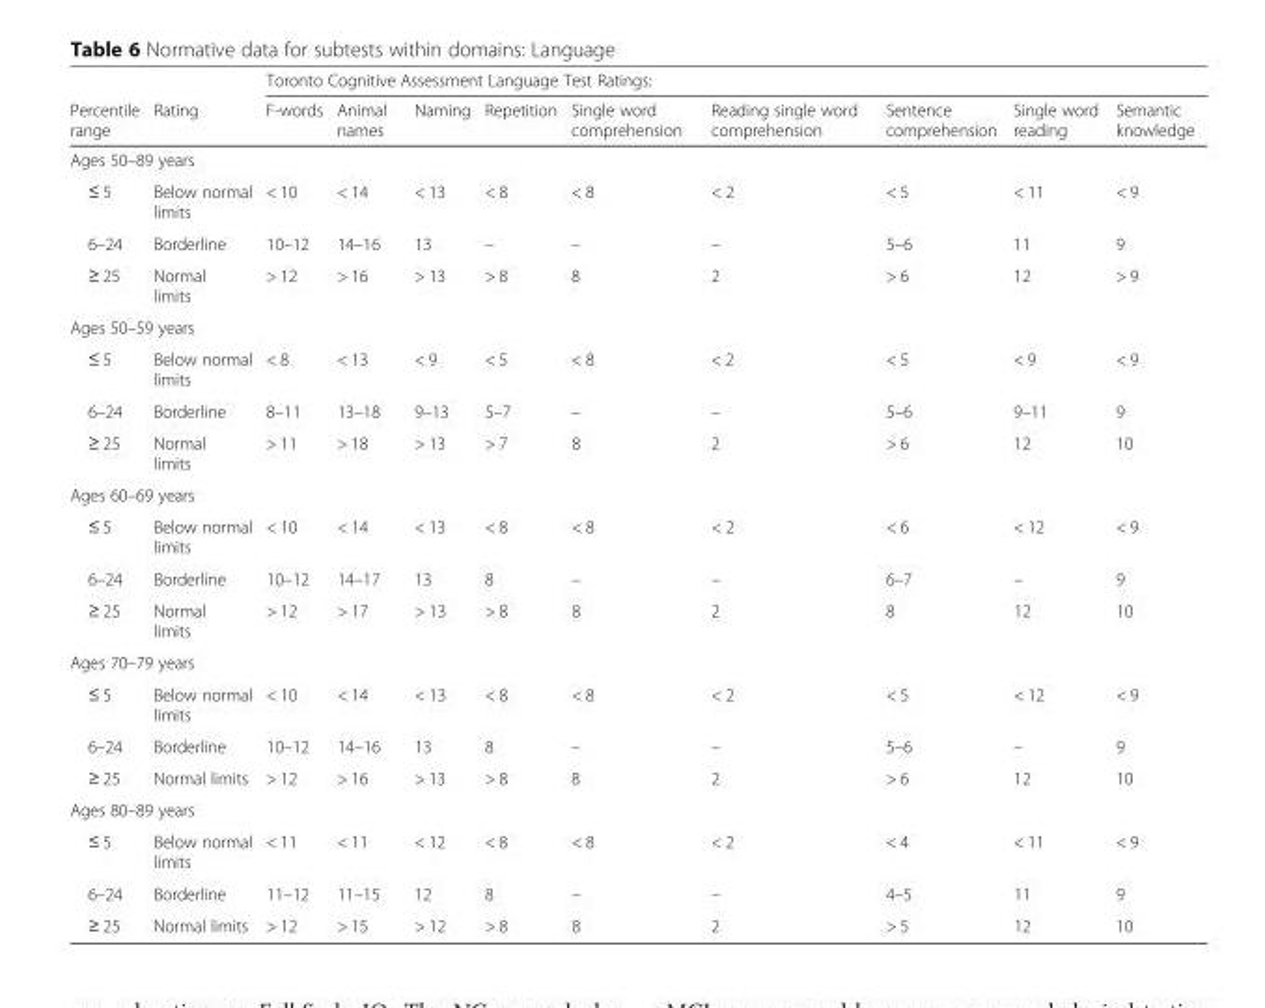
<table><thead><tr><td rowspan="2">Percentile range</td><td rowspan="2">Rating</td><td colspan="9">Toronto Cognitive Assessment Language Test Ratings:</td></tr><tr><td>F-words</td><td>Animal names</td><td>Naming</td><td>Repetition</td><td>Single word comprehension</td><td>Reading single word comprehension</td><td>Sentence comprehension</td><td>Single word reading</td><td>Semantic knowledge</td></tr></thead><tbody><tr><td colspan="11">Ages 50–89 years</td></tr><tr><td>≤ 5</td><td>Below normal limits</td><td>&lt; 10</td><td>&lt; 14</td><td>&lt; 13</td><td>&lt; 8</td><td>&lt; 8</td><td>&lt; 2</td><td>&lt; 5</td><td>&lt; 11</td><td>&lt; 9</td></tr><tr><td>6–24</td><td>Borderline</td><td>10–12</td><td>14–16</td><td>13</td><td>–</td><td>–</td><td>–</td><td>5–6</td><td>11</td><td>9</td></tr><tr><td>≥ 25</td><td>Normal limits</td><td>&gt; 12</td><td>&gt; 16</td><td>&gt; 13</td><td>&gt; 8</td><td>8</td><td>2</td><td>&gt; 6</td><td>12</td><td>&gt; 9</td></tr><tr><td colspan="11">Ages 50–59 years</td></tr><tr><td>≤ 5</td><td>Below normal limits</td><td>&lt; 8</td><td>&lt; 13</td><td>&lt; 9</td><td>&lt; 5</td><td>&lt; 8</td><td>&lt; 2</td><td>&lt; 5</td><td>&lt; 9</td><td>&lt; 9</td></tr><tr><td>6–24</td><td>Borderline</td><td>8–11</td><td>13–18</td><td>9–13</td><td>5–7</td><td>–</td><td>–</td><td>5–6</td><td>9–11</td><td>9</td></tr><tr><td>≥ 25</td><td>Normal limits</td><td>&gt; 11</td><td>&gt; 18</td><td>&gt; 13</td><td>&gt; 7</td><td>8</td><td>2</td><td>&gt; 6</td><td>12</td><td>10</td></tr><tr><td colspan="11">Ages 60–69 years</td></tr><tr><td>≤ 5</td><td>Below normal limits</td><td>&lt; 10</td><td>&lt; 14</td><td>&lt; 13</td><td>&lt; 8</td><td>&lt; 8</td><td>&lt; 2</td><td>&lt; 6</td><td>&lt; 12</td><td>&lt; 9</td></tr><tr><td>6–24</td><td>Borderline</td><td>10–12</td><td>14–17</td><td>13</td><td>8</td><td>–</td><td>–</td><td>6–7</td><td>–</td><td>9</td></tr><tr><td>≥ 25</td><td>Normal limits</td><td>&gt; 12</td><td>&gt; 17</td><td>&gt; 13</td><td>&gt; 8</td><td>8</td><td>2</td><td>8</td><td>12</td><td>10</td></tr><tr><td colspan="11">Ages 70–79 years</td></tr><tr><td>≤ 5</td><td>Below normal limits</td><td>&lt; 10</td><td>&lt; 14</td><td>&lt; 13</td><td>&lt; 8</td><td>&lt; 8</td><td>&lt; 2</td><td>&lt; 5</td><td>&lt; 12</td><td>&lt; 9</td></tr><tr><td>6–24</td><td>Borderline</td><td>10–12</td><td>14–16</td><td>13</td><td>8</td><td>–</td><td>–</td><td>5–6</td><td>–</td><td>9</td></tr><tr><td>≥ 25</td><td>Normal limits</td><td>&gt; 12</td><td>&gt; 16</td><td>&gt; 13</td><td>&gt; 8</td><td>8</td><td>2</td><td>&gt; 6</td><td>12</td><td>10</td></tr><tr><td colspan="11">Ages 80–89 years</td></tr><tr><td>≤ 5</td><td>Below normal limits</td><td>&lt; 11</td><td>&lt; 11</td><td>&lt; 12</td><td>&lt; 8</td><td>&lt; 8</td><td>&lt; 2</td><td>&lt; 4</td><td>&lt; 11</td><td>&lt; 9</td></tr><tr><td>6–24</td><td>Borderline</td><td>11–12</td><td>11–15</td><td>12</td><td>8</td><td>–</td><td>–</td><td>4–5</td><td>11</td><td>9</td></tr><tr><td>≥ 25</td><td>Normal limits</td><td>&gt; 12</td><td>&gt; 15</td><td>&gt; 12</td><td>&gt; 8</td><td>8</td><td>2</td><td>&gt; 5</td><td>12</td><td>10</td></tr></tbody></table>